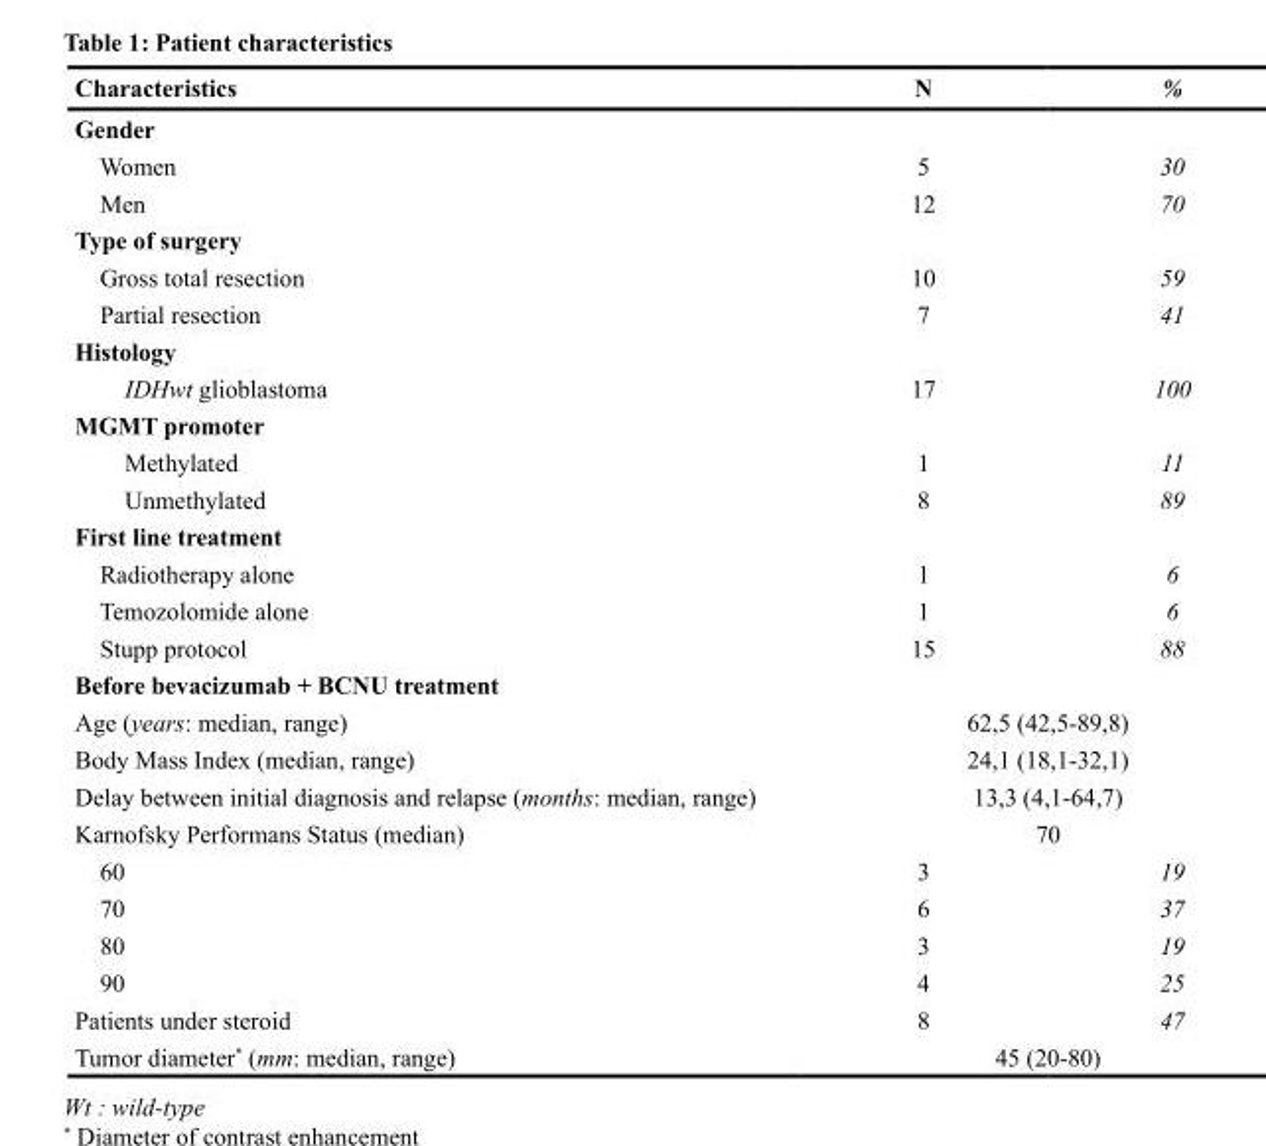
<table><thead><tr><td>Characteristics</td><td>N</td><td>%</td></tr></thead><tbody><tr><td colspan="3">Gender</td></tr><tr><td>Women</td><td>5</td><td>30</td></tr><tr><td>Men</td><td>12</td><td>70</td></tr><tr><td colspan="3">Type of surgery</td></tr><tr><td>Gross total resection</td><td>10</td><td>59</td></tr><tr><td>Partial resection</td><td>7</td><td>41</td></tr><tr><td colspan="3">Histology</td></tr><tr><td>IDHwt glioblastoma</td><td>17</td><td>100</td></tr><tr><td colspan="3">MGMT promoter</td></tr><tr><td>Methylated</td><td>1</td><td>11</td></tr><tr><td>Unmethylated</td><td>8</td><td>89</td></tr><tr><td colspan="3">First line treatment</td></tr><tr><td>Radiotherapy alone</td><td>1</td><td>6</td></tr><tr><td>Temozolomide alone</td><td>1</td><td>6</td></tr><tr><td>Stupp protocol</td><td>15</td><td>88</td></tr><tr><td colspan="3">Before bevacizumab + BCNU treatment</td></tr><tr><td>Age (years: median, range)</td><td colspan="2">62,5 (42,5-89,8)</td></tr><tr><td>Body Mass Index (median, range)</td><td colspan="2">24,1 (18,1-32,1)</td></tr><tr><td>Delay between initial diagnosis and relapse (months: median, range)</td><td colspan="2">13,3 (4,1-64,7)</td></tr><tr><td>Karnofsky Performans Status (median)</td><td colspan="2">70</td></tr><tr><td>60</td><td>3</td><td>19</td></tr><tr><td>70</td><td>6</td><td>37</td></tr><tr><td>80</td><td>3</td><td>19</td></tr><tr><td>90</td><td>4</td><td>25</td></tr><tr><td>Patients under steroid</td><td>8</td><td>47</td></tr><tr><td>Tumor diameter* (mm: median, range)</td><td colspan="2">45 (20-80)</td></tr></tbody></table>